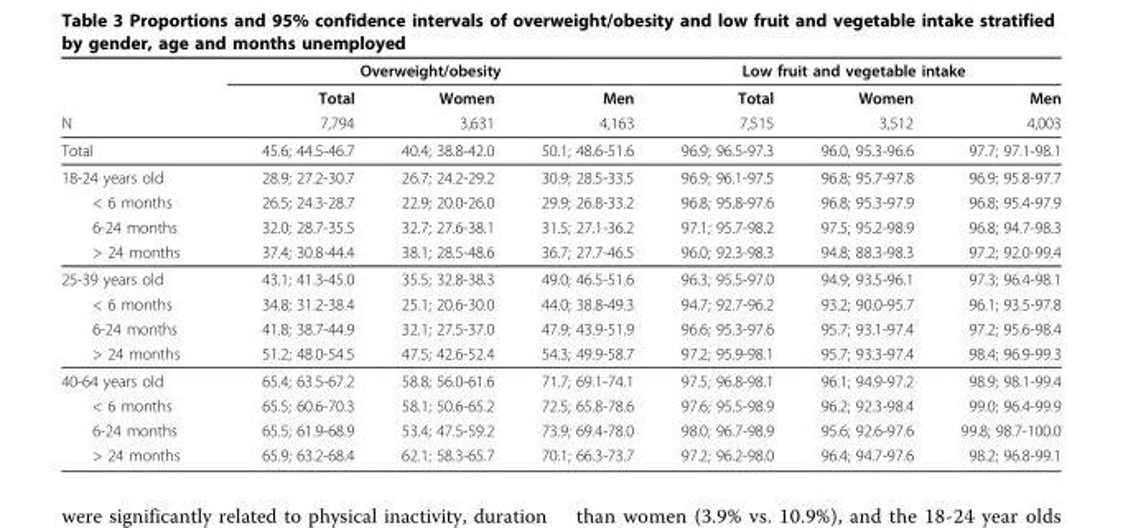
<table><thead><tr><td rowspan="3">N</td><td colspan="3">Overweight/obesity</td><td colspan="3">Low fruit and vegetable intake</td></tr><tr><td rowspan="2">Total 7,794</td><td rowspan="2">Women 3,631</td><td rowspan="2">Men 4,163</td><td rowspan="2">Total 7,515</td><td rowspan="2">Women 3,512</td><td rowspan="2">Men 4,003</td></tr><tr></tr></thead><tbody><tr><td>Total</td><td>45.6; 44.5-46.7</td><td>40.4; 38.8-42.0</td><td>50.1; 48.6-51.6</td><td>96.9; 96.5-97.3</td><td>96.0, 95.3-96.6</td><td>97.7; 97.1-98.1</td></tr><tr><td>18-24 years old</td><td>28.9; 27.2-30.7</td><td>26.7; 24.2-29.2</td><td>30.9; 28.5-33.5</td><td>96.9; 96.1-97.5</td><td>96.8; 95.7-97.8</td><td>96.9; 95.8-97.7</td></tr><tr><td>&lt; 6 months</td><td>26.5; 24.3-28.7</td><td>22.9; 20.0-26.0</td><td>29.9; 26.8-33.2</td><td>96.8; 95.8-97.6</td><td>96.8; 95.3-97.9</td><td>96.8; 95.4-97.9</td></tr><tr><td>6-24 months</td><td>32.0; 28.7-35.5</td><td>32.7; 27.6-38.1</td><td>31.5; 27.1-36.2</td><td>97.1; 95.7-98.2</td><td>97.5; 95.2-98.9</td><td>96.8; 94.7-98.3</td></tr><tr><td>&gt; 24 months</td><td>37.4; 30.8-44.4</td><td>38.1; 28.5-48.6</td><td>36.7; 27.7-46.5</td><td>96.0; 92.3-98.3</td><td>94.8; 88.3-98.3</td><td>97.2; 92.0-99.4</td></tr><tr><td>25-39 years old</td><td>43.1; 41.3-45.0</td><td>35.5; 32.8-38.3</td><td>49.0; 46.5-51.6</td><td>96.3; 95.5-97.0</td><td>94.9; 93.5-96.1</td><td>97.3; 96.4-98.1</td></tr><tr><td>&lt; 6 months</td><td>34.8; 31.2-38.4</td><td>25.1; 20.6-30.0</td><td>44.0; 38.8-49.3</td><td>94.7; 92.7-96.2</td><td>93.2; 90.0-95.7</td><td>96.1; 93.5-97.8</td></tr><tr><td>6-24 months</td><td>41.8; 38.7-44.9</td><td>32.1; 27.5-37.0</td><td>47.9; 43.9-51.9</td><td>96.6; 95.3-97.6</td><td>95.7; 93.1-97.4</td><td>97.2; 95.6-98.4</td></tr><tr><td>&gt; 24 months</td><td>51.2; 48.0-54.5</td><td>47.5; 42.6-52.4</td><td>54.3; 49.9-58.7</td><td>97.2; 95.9-98.1</td><td>95.7; 93.3-97.4</td><td>98.4; 96.9-99.3</td></tr><tr><td>40-64 years old</td><td>65.4; 63.5-67.2</td><td>58.8; 56.0-61.6</td><td>71.7; 69.1-74.1</td><td>97.5; 96.8-98.1</td><td>96.1; 94.9-97.2</td><td>98.9; 98.1-99.4</td></tr><tr><td>&lt; 6 months</td><td>65.5; 60.6-70.3</td><td>58.1; 50.6-65.2</td><td>72.5; 65.8-78.6</td><td>97.6; 95.5-98.9</td><td>96.2; 92.3-98.4</td><td>99.0; 96.4-99.9</td></tr><tr><td>6-24 months</td><td>65.5; 61.9-68.9</td><td>53.4; 47.5-59.2</td><td>73.9; 69.4-78.0</td><td>98.0; 96.7-98.9</td><td>95.6; 92.6-97.6</td><td>99.8; 98.7-100.0</td></tr><tr><td>&gt; 24 months</td><td>65.9; 63.2-68.4</td><td>62.1; 58.3-65.7</td><td>70.1; 66.3-73.7</td><td>97.2; 96.2-98.0</td><td>96.4; 94.7-97.6</td><td>98.2; 96.8-99.1</td></tr></tbody></table>